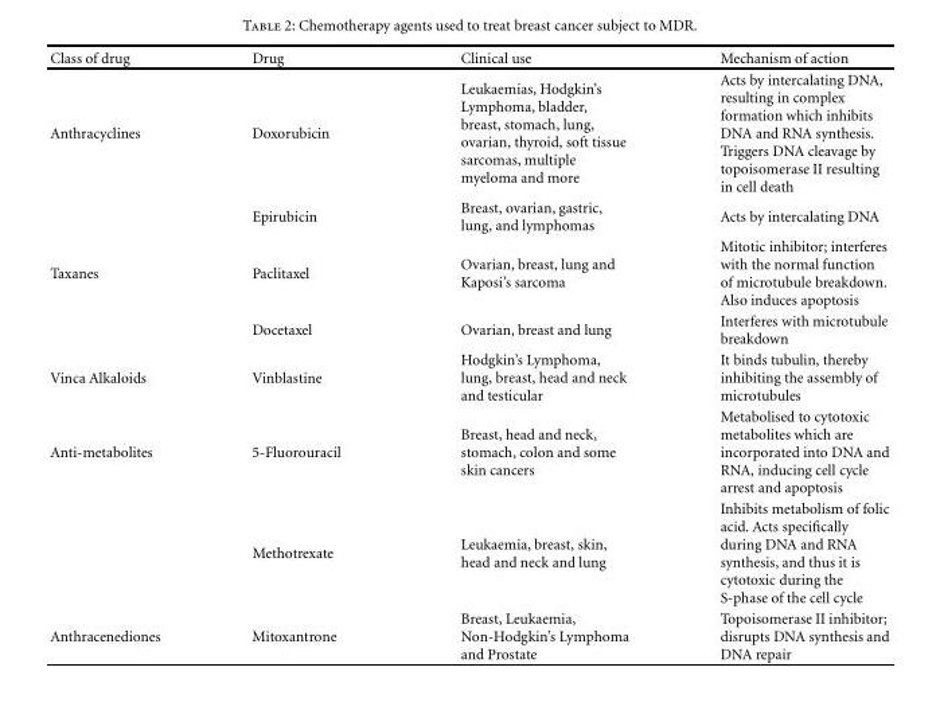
<table><thead><tr><td>Class of drug</td><td>Drug</td><td>Clinical use</td><td>Mechanism of action</td></tr></thead><tbody><tr><td rowspan="2">Anthracyclines</td><td>Doxorubicin</td><td>Leukaemias, Hodgkin’s Lymphoma, bladder, breast, stomach, lung, ovarian, thyroid, soft tissue sarcomas, multiple myeloma and more</td><td>Acts by intercalating DNA, resulting in complex formation which inhibits DNA and RNA synthesis. Triggers DNA cleavage by topoisomerase II resulting in cell death</td></tr><tr><td>Epirubicin</td><td>Breast, ovarian, gastric, lung, and lymphomas</td><td>Acts by intercalating DNA</td></tr><tr><td rowspan="2">Taxanes</td><td>Paclitaxel</td><td>Ovarian, breast, lung and Kaposi’s sarcoma</td><td>Mitotic inhibitor; interferes with the normal function of microtubule breakdown. Also induces apoptosis</td></tr><tr><td>Docetaxel</td><td>Ovarian, breast and lung</td><td>Interferes with microtubule breakdown</td></tr><tr><td>Vinca Alkaloids</td><td>Vinblastine</td><td>Hodgkin’s Lymphoma, lung, breast, head and neck and testicular</td><td>It binds tubulin, thereby inhibiting the assembly of microtubules</td></tr><tr><td rowspan="2">Anti-metabolites</td><td>5-Fluorouracil</td><td>Breast, head and neck, stomach, colon and some skin cancers</td><td>Metabolised to cytotoxic metabolites which are incorporated into DNA and RNA, inducing cell cycle arrest and apoptosis</td></tr><tr><td>Methotrexate</td><td>Leukaemia, breast, skin, head and neck and lung</td><td>Inhibits metabolism of folic acid. Acts specifically during DNA and RNA synthesis, and thus it is cytotoxic during the S-phase of the cell cycle</td></tr><tr><td>Anthracenediones</td><td>Mitoxantrone</td><td>Breast, Leukaemia, Non-Hodgkin’s Lymphoma and Prostate</td><td>Topoisomerase II inhibitor; disrupts DNA synthesis and DNA repair</td></tr></tbody></table>